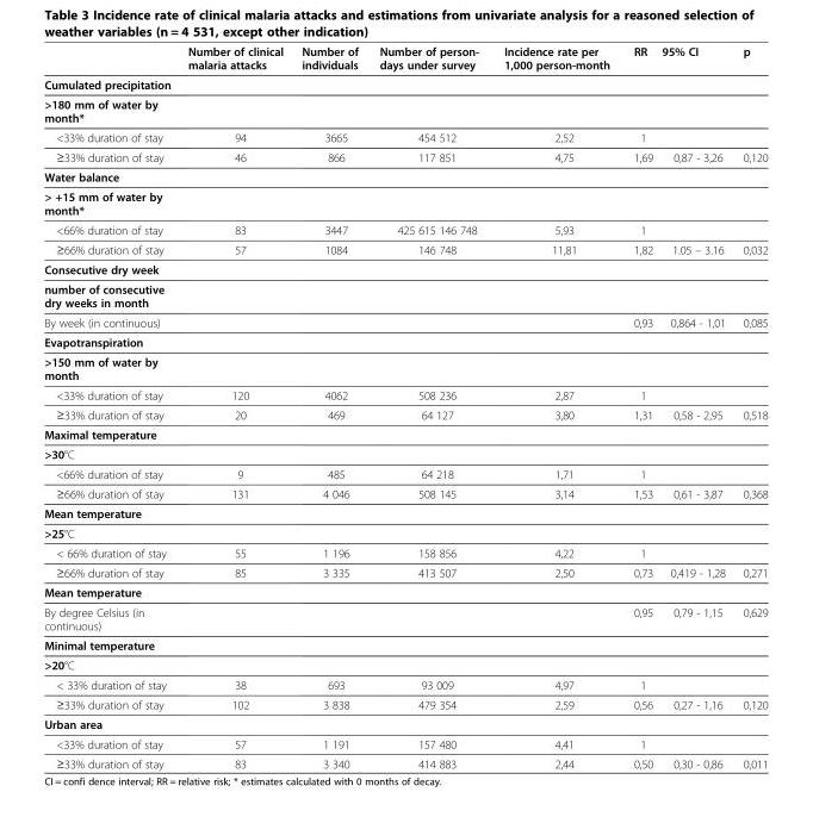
<table><thead><tr><td></td><td>Number of clinical malaria attacks</td><td>Number of individuals</td><td>Number of person- days under survey</td><td>Incidence rate per 1,000 person-month</td><td>RR</td><td>95% CI</td><td>p</td></tr></thead><tbody><tr><td colspan="8">Cumulated precipitation</td></tr><tr><td colspan="8">&gt;180 mm of water by month*</td></tr><tr><td>&lt;33% duration of stay</td><td>94</td><td>3665</td><td>454 512</td><td>2,52</td><td>1</td><td></td><td></td></tr><tr><td>≥33% duration of stay</td><td>46</td><td>866</td><td>117 851</td><td>4,75</td><td>1,69</td><td>0,87 - 3,26</td><td>0,120</td></tr><tr><td colspan="8">Water balance</td></tr><tr><td colspan="8">&gt; +15 mm of water by month*</td></tr><tr><td>&lt;66% duration of stay</td><td>83</td><td>3447</td><td>425 615 146 748</td><td>5,93</td><td>1</td><td></td><td></td></tr><tr><td>≥66% duration of stay</td><td>57</td><td>1084</td><td>146 748</td><td>11,81</td><td>1,82</td><td>1.05 – 3.16</td><td>0,032</td></tr><tr><td colspan="8">Consecutive dry week</td></tr><tr><td colspan="8">number of consecutive dry weeks in month</td></tr><tr><td>By week (in continuous)</td><td></td><td></td><td></td><td></td><td>0,93</td><td>0,864 - 1,01</td><td>0,085</td></tr><tr><td colspan="8">Evapotranspiration</td></tr><tr><td colspan="8">&gt;150 mm of water by month</td></tr><tr><td>&lt;33% duration of stay</td><td>120</td><td>4062</td><td>508 236</td><td>2,87</td><td>1</td><td></td><td></td></tr><tr><td>≥33% duration of stay</td><td>20</td><td>469</td><td>64 127</td><td>3,80</td><td>1,31</td><td>0,58 - 2,95</td><td>0,518</td></tr><tr><td colspan="8">Maximal temperature</td></tr><tr><td colspan="8">&gt;30°C</td></tr><tr><td>&lt;66% duration of stay</td><td>9</td><td>485</td><td>64 218</td><td>1,71</td><td>1</td><td></td><td></td></tr><tr><td>≥66% duration of stay</td><td>131</td><td>4 046</td><td>508 145</td><td>3,14</td><td>1,53</td><td>0,61 - 3,87</td><td>0,368</td></tr><tr><td colspan="8">Mean temperature</td></tr><tr><td colspan="8">&gt;25°C</td></tr><tr><td>&lt; 66% duration of stay</td><td>55</td><td>1 196</td><td>158 856</td><td>4,22</td><td>1</td><td></td><td></td></tr><tr><td>≥66% duration of stay</td><td>85</td><td>3 335</td><td>413 507</td><td>2,50</td><td>0,73</td><td>0,419 - 1,28</td><td>0,271</td></tr><tr><td colspan="8">Mean temperature</td></tr><tr><td>By degree Celsius (in continuous)</td><td></td><td></td><td></td><td></td><td>0,95</td><td>0,79 - 1,15</td><td>0,629</td></tr><tr><td colspan="8">Minimal temperature</td></tr><tr><td colspan="8">&gt;20°C</td></tr><tr><td>&lt; 33% duration of stay</td><td>38</td><td>693</td><td>93 009</td><td>4,97</td><td>1</td><td></td><td></td></tr><tr><td>≥33% duration of stay</td><td>102</td><td>3 838</td><td>479 354</td><td>2,59</td><td>0,56</td><td>0,27 - 1,16</td><td>0,120</td></tr><tr><td colspan="8">Urban area</td></tr><tr><td>&lt;33% duration of stay</td><td>57</td><td>1 191</td><td>157 480</td><td>4,41</td><td>1</td><td></td><td></td></tr><tr><td>≥33% duration of stay</td><td>83</td><td>3 340</td><td>414 883</td><td>2,44</td><td>0,50</td><td>0,30 - 0,86</td><td>0,011</td></tr></tbody></table>